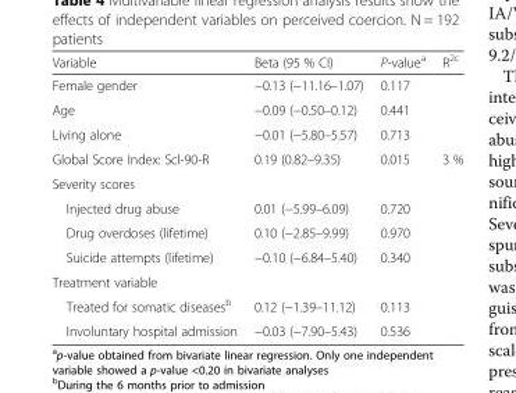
<table><thead><tr><td>Variable</td><td>Beta (95 % CI)</td><td>P-value<sup>a</sup></td><td>R<sup>2c</sup></td></tr></thead><tbody><tr><td>Female gender</td><td>−0.13 (−11.16–1.07)</td><td>0.117</td><td></td></tr><tr><td>Age</td><td>−0.09 (−0.50–0.12)</td><td>0.441</td><td></td></tr><tr><td>Living alone</td><td>−0.01 (−5.80–5.57)</td><td>0.713</td><td></td></tr><tr><td>Global Score Index: Scl-90-R</td><td>0.19 (0.82–9.35)</td><td>0.015</td><td>3 %</td></tr><tr><td colspan="4">Severity scores</td></tr><tr><td>Injected drug abuse</td><td>0.01 (−5.99–6.09)</td><td>0.720</td><td></td></tr><tr><td>Drug overdoses (lifetime)</td><td>0.10 (−2.85–9.99)</td><td>0.970</td><td></td></tr><tr><td>Suicide attempts (lifetime)</td><td>−0.10 (−6.84–5.40)</td><td>0.340</td><td></td></tr><tr><td colspan="4">Treatment variable</td></tr><tr><td>Treated for somatic diseases<sup>b</sup></td><td>0.12 (−1.39–11.12)</td><td>0.113</td><td></td></tr><tr><td>Involuntary hospital admission</td><td>−0.03 (−7.90–5.43)</td><td>0.536</td><td></td></tr></tbody></table>